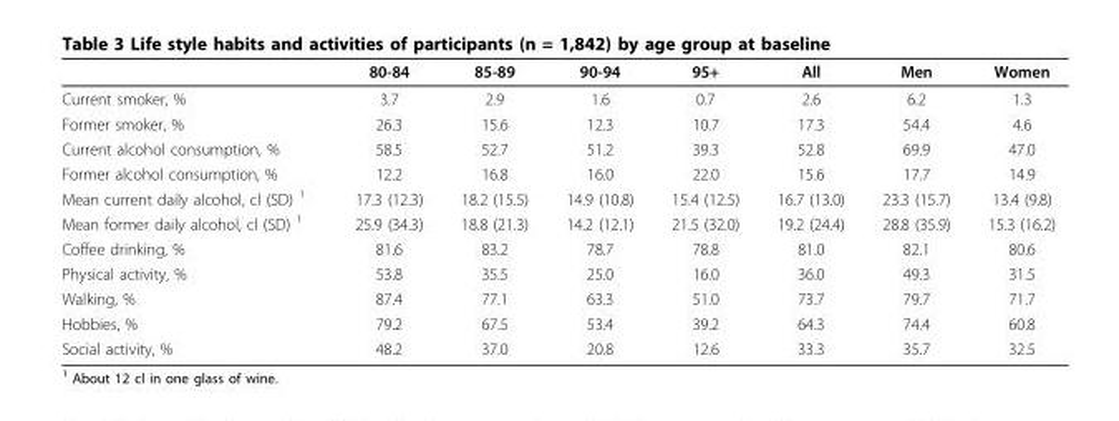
<table><thead><tr><td></td><td>80-84</td><td>85-89</td><td>90-94</td><td>95+</td><td>All</td><td>Men</td><td>Women</td></tr></thead><tbody><tr><td>Current smoker, %</td><td>3.7</td><td>2.9</td><td>1.6</td><td>0.7</td><td>2.6</td><td>6.2</td><td>1.3</td></tr><tr><td>Former smoker, %</td><td>26.3</td><td>15.6</td><td>12.3</td><td>10.7</td><td>17.3</td><td>54.4</td><td>4.6</td></tr><tr><td>Current alcohol consumption, %</td><td>58.5</td><td>52.7</td><td>51.2</td><td>39.3</td><td>52.8</td><td>69.9</td><td>47.0</td></tr><tr><td>Former alcohol consumption, %</td><td>12.2</td><td>16.8</td><td>16.0</td><td>22.0</td><td>15.6</td><td>17.7</td><td>14.9</td></tr><tr><td>Mean current daily alcohol, cl (SD) <sup>1</sup></td><td>17.3 (12.3)</td><td>18.2 (15.5)</td><td>14.9 (10.8)</td><td>15.4 (12.5)</td><td>16.7 (13.0)</td><td>23.3 (15.7)</td><td>13.4 (9.8)</td></tr><tr><td>Mean former daily alcohol, cl (SD) <sup>1</sup></td><td>25.9 (34.3)</td><td>18.8 (21.3)</td><td>14.2 (12.1)</td><td>21.5 (32.0)</td><td>19.2 (24.4)</td><td>28.8 (35.9)</td><td>15.3 (16.2)</td></tr><tr><td>Coffee drinking, %</td><td>81.6</td><td>83.2</td><td>78.7</td><td>78.8</td><td>81.0</td><td>82.1</td><td>80.6</td></tr><tr><td>Physical activity, %</td><td>53.8</td><td>35.5</td><td>25.0</td><td>16.0</td><td>36.0</td><td>49.3</td><td>31.5</td></tr><tr><td>Walking, %</td><td>87.4</td><td>77.1</td><td>63.3</td><td>51.0</td><td>73.7</td><td>79.7</td><td>71.7</td></tr><tr><td>Hobbies, %</td><td>79.2</td><td>67.5</td><td>53.4</td><td>39.2</td><td>64.3</td><td>74.4</td><td>60.8</td></tr><tr><td>Social activity, %</td><td>48.2</td><td>37.0</td><td>20.8</td><td>12.6</td><td>33.3</td><td>35.7</td><td>32.5</td></tr></tbody></table>